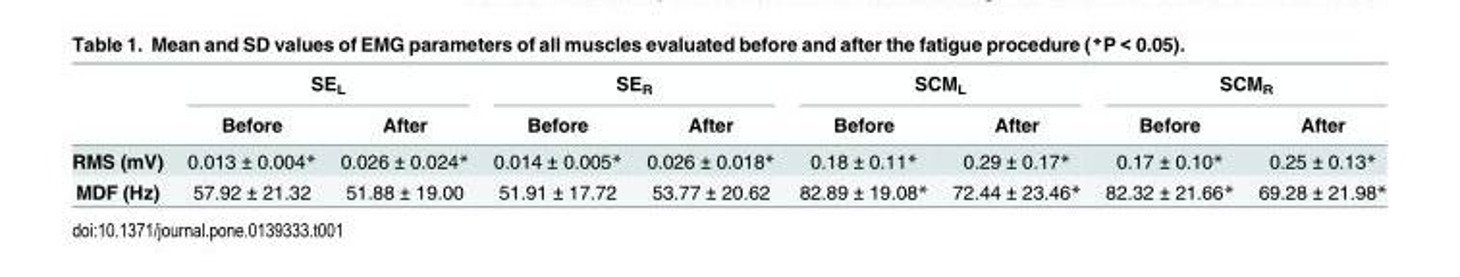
<table><thead><tr><td rowspan="2"></td><td colspan="2">SE<sub>L</sub></td><td colspan="2">SE<sub>R</sub></td><td colspan="2">SCM<sub>L</sub></td><td colspan="2">SCM<sub>R</sub></td></tr><tr><td>Before</td><td>After</td><td>Before</td><td>After</td><td>Before</td><td>After</td><td>Before</td><td>After</td></tr></thead><tbody><tr><td>RMS (mV)</td><td>0.013 ± 0.004*</td><td>0.026 ± 0.024*</td><td>0.014 ± 0.005*</td><td>0.026 ± 0.018*</td><td>0.18 ± 0.11*</td><td>0.29 ± 0.17*</td><td>0.17 ± 0.10*</td><td>0.25 ± 0.13*</td></tr><tr><td>MDF (Hz)</td><td>57.92 ± 21.32</td><td>51.88 ± 19.00</td><td>51.91 ± 17.72</td><td>53.77 ± 20.62</td><td>82.89 ± 19.08*</td><td>72.44 ± 23.46*</td><td>82.32 ± 21.66*</td><td>69.28 ± 21.98*</td></tr></tbody></table>